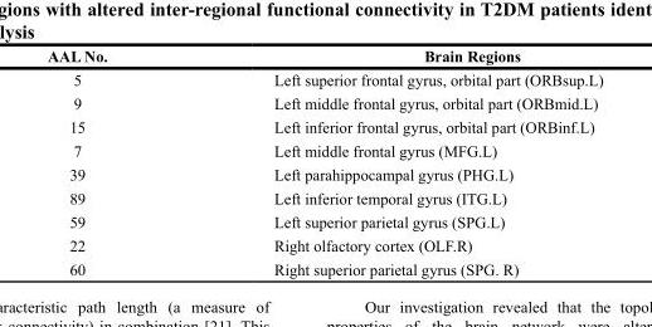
<table><thead><tr><td>AAL No.</td><td>Brain Regions</td></tr></thead><tbody><tr><td>5</td><td>Left superior frontal gyrus, orbital part (ORBsup.L)</td></tr><tr><td>9</td><td>Left middle frontal gyrus, orbital part (ORBmid.L)</td></tr><tr><td>15</td><td>Left inferior frontal gyrus, orbital part (ORBinf.L)</td></tr><tr><td>7</td><td>Left middle frontal gyrus (MFG.L)</td></tr><tr><td>39</td><td>Left parahippocampal gyrus (PHG.L)</td></tr><tr><td>89</td><td>Left inferior temporal gyrus (ITG.L)</td></tr><tr><td>59</td><td>Left superior parietal gyrus (SPG.L)</td></tr><tr><td>22</td><td>Right olfactory cortex (OLF.R)</td></tr><tr><td>60</td><td>Right superior parietal gyrus (SPG. R)</td></tr></tbody></table>